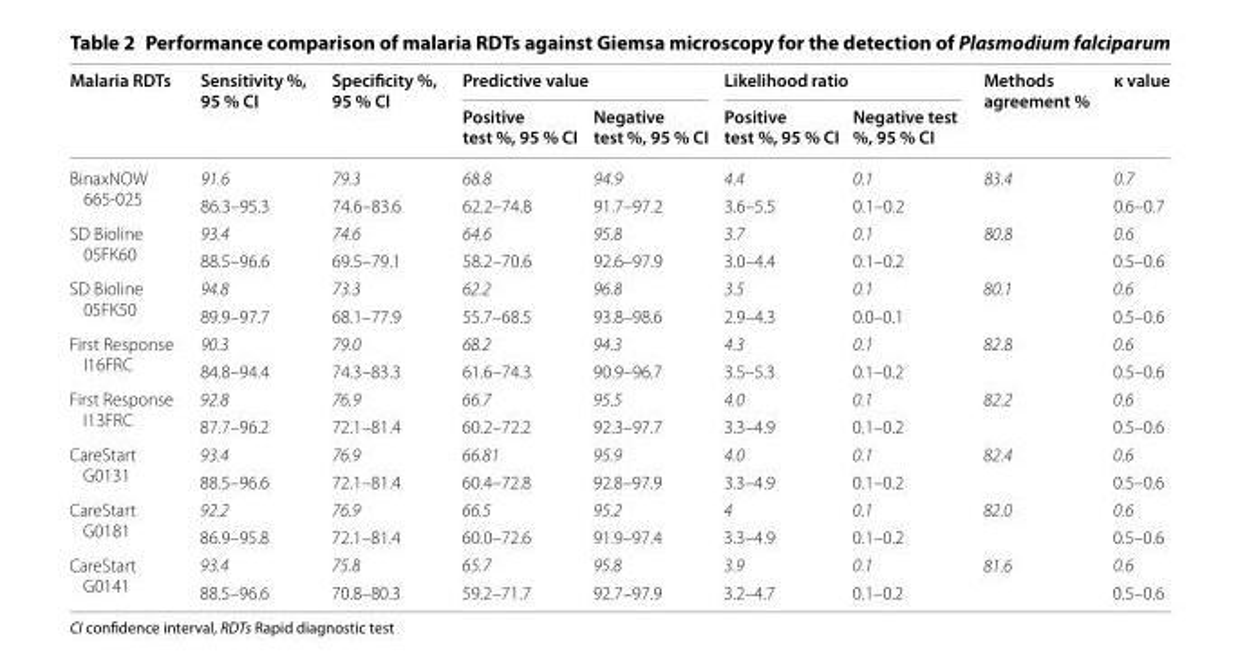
<table><thead><tr><td rowspan="2">Malaria RDTs</td><td rowspan="2">Sensitivity %, 95 % CI</td><td rowspan="2">Specificity %, 95 % CI</td><td colspan="2">Predictive value</td><td colspan="2">Likelihood ratio</td><td rowspan="2">Methods agreement %</td><td rowspan="2">κ value</td></tr><tr><td>Positive test %, 95 % CI</td><td>Negative test %, 95 % CI</td><td>Positive test %, 95 % CI</td><td>Negative test %, 95 % CI</td></tr></thead><tbody><tr><td rowspan="2">BinaxNOW 665-025</td><td>91.6</td><td>79.3</td><td>68.8</td><td>94.9</td><td>4.4</td><td>0.1</td><td rowspan="2">83.4</td><td>0.7</td></tr><tr><td>86.3–95.3</td><td>74.6–83.6</td><td>62.2–74.8</td><td>91.7–97.2</td><td>3.6–5.5</td><td>0.1–0.2</td><td>0.6–0.7</td></tr><tr><td rowspan="2">SD Bioline 05FK60</td><td>93.4</td><td>74.6</td><td>64.6</td><td>95.8</td><td>3.7</td><td>0.1</td><td rowspan="2">80.8</td><td>0.6</td></tr><tr><td>88.5–96.6</td><td>69.5–79.1</td><td>58.2–70.6</td><td>92.6–97.9</td><td>3.0–4.4</td><td>0.1–0.2</td><td>0.5–0.6</td></tr><tr><td rowspan="2">SD Bioline 05FK50</td><td>94.8</td><td>73.3</td><td>62.2</td><td>96.8</td><td>3.5</td><td>0.1</td><td rowspan="2">80.1</td><td>0.6</td></tr><tr><td>89.9–97.7</td><td>68.1–77.9</td><td>55.7–68.5</td><td>93.8–98.6</td><td>2.9–4.3</td><td>0.0–0.1</td><td>0.5–0.6</td></tr><tr><td rowspan="2">First Response I16FRC</td><td>90.3</td><td>79.0</td><td>68.2</td><td>94.3</td><td>4.3</td><td>0.1</td><td rowspan="2">82.8</td><td>0.6</td></tr><tr><td>84.8–94.4</td><td>74.3–83.3</td><td>61.6–74.3</td><td>90.9–96.7</td><td>3.5–5.3</td><td>0.1–0.2</td><td>0.5–0.6</td></tr><tr><td rowspan="2">First Response I13FRC</td><td>92.8</td><td>76.9</td><td>66.7</td><td>95.5</td><td>4.0</td><td>0.1</td><td rowspan="2">82.2</td><td>0.6</td></tr><tr><td>87.7–96.2</td><td>72.1–81.4</td><td>60.2–72.2</td><td>92.3–97.7</td><td>3.3–4.9</td><td>0.1–0.2</td><td>0.5–0.6</td></tr><tr><td rowspan="2">CareStart G0131</td><td>93.4</td><td>76.9</td><td>66.81</td><td>95.9</td><td>4.0</td><td>0.1</td><td rowspan="2">82.4</td><td>0.6</td></tr><tr><td>88.5–96.6</td><td>72.1–81.4</td><td>60.4–72.8</td><td>92.8–97.9</td><td>3.3–4.9</td><td>0.1–0.2</td><td>0.5–0.6</td></tr><tr><td rowspan="2">CareStart G0181</td><td>92.2</td><td>76.9</td><td>66.5</td><td>95.2</td><td>4</td><td>0.1</td><td rowspan="2">82.0</td><td>0.6</td></tr><tr><td>86.9–95.8</td><td>72.1–81.4</td><td>60.0–72.6</td><td>91.9–97.4</td><td>3.3–4.9</td><td>0.1–0.2</td><td>0.5–0.6</td></tr><tr><td rowspan="2">CareStart G0141</td><td>93.4</td><td>75.8</td><td>65.7</td><td>95.8</td><td>3.9</td><td>0.1</td><td rowspan="2">81.6</td><td>0.6</td></tr><tr><td>88.5–96.6</td><td>70.8–80.3</td><td>59.2–71.7</td><td>92.7–97.9</td><td>3.2–4.7</td><td>0.1–0.2</td><td>0.5–0.6</td></tr></tbody></table>